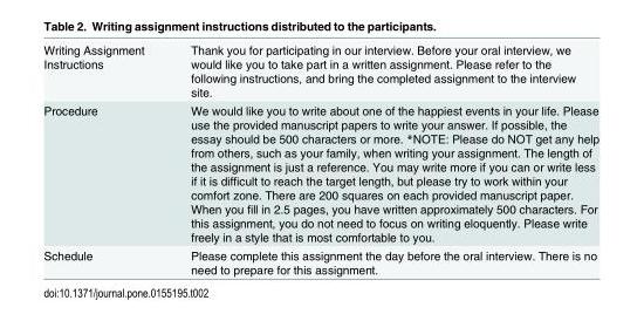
<table><tbody><tr><td>Writing Assignment Instructions</td><td>Thank you for participating in our interview. Before your oral interview, we would like you to take part in a written assignment. Please refer to the following instructions, and bring the completed assignment to the interview site.</td></tr><tr><td>Procedure</td><td>We would like you to write about one of the happiest events in your life. Please use the provided manuscript papers to write your answer. If possible, the essay should be 500 characters or more. *NOTE: Please do NOT get any help from others, such as your family, when writing your assignment. The length of the assignment is just a reference. You may write more if you can or write less if it is difficult to reach the target length, but please try to work within your comfort zone. There are 200 squares on each provided manuscript paper. When you fill in 2.5 pages, you have written approximately 500 characters. For this assignment, you do not need to focus on writing eloquently. Please write freely in a style that is most comfortable to you.</td></tr><tr><td>Schedule</td><td>Please complete this assignment the day before the oral interview. There is no need to prepare for this assignment.</td></tr></tbody></table>